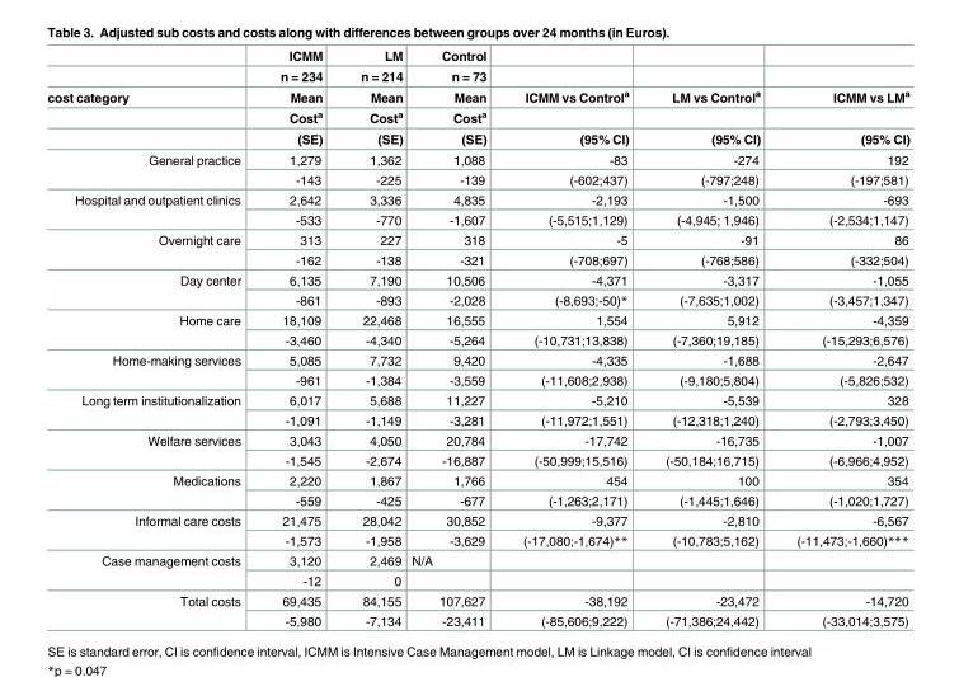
<table><thead><tr><td rowspan="5">cost category</td><td rowspan="5">ICMM n = 234 Mean Costa (SE)</td><td rowspan="5">LM n = 214 Mean Costa (SE)</td><td rowspan="5">Control n = 73 Mean Costa (SE)</td><td rowspan="5">ICMM vs Control<sup>a</sup> (95% CI)</td><td rowspan="5">LM vs Control<sup>a</sup> (95% CI)</td><td rowspan="5">ICMM vs LM<sup>a</sup> (95% CI)</td></tr><tr></tr><tr></tr><tr></tr><tr></tr></thead><tbody><tr><td rowspan="2">General practice</td><td>1,279</td><td>1,362</td><td>1,088</td><td>-83</td><td>-274</td><td>192</td></tr><tr><td>-143</td><td>-225</td><td>-139</td><td>(-602;437)</td><td>(-797;248)</td><td>(-197;581)</td></tr><tr><td rowspan="2">Hospital and outpatient clinics</td><td>2,642</td><td>3,336</td><td>4,835</td><td>-2,193</td><td>-1,500</td><td>-693</td></tr><tr><td>-533</td><td>-770</td><td>-1,607</td><td>(-5,515;1,129)</td><td>(-4,945; 1,946)</td><td>(-2,534;1,147)</td></tr><tr><td rowspan="2">Overnight care</td><td>313</td><td>227</td><td>318</td><td>-5</td><td>-91</td><td>86</td></tr><tr><td>-162</td><td>-138</td><td>-321</td><td>(-708;697)</td><td>(-768;586)</td><td>(-332;504)</td></tr><tr><td rowspan="2">Day center</td><td>6,135</td><td>7,190</td><td>10,506</td><td>-4,371</td><td>-3,317</td><td>-1,055</td></tr><tr><td>-861</td><td>-893</td><td>-2,028</td><td>(-8,693;-50)*</td><td>(-7,635;1,002)</td><td>(-3,457;1,347)</td></tr><tr><td rowspan="2">Home care</td><td>18,109</td><td>22,468</td><td>16,555</td><td>1,554</td><td>5,912</td><td>-4,359</td></tr><tr><td>-3,460</td><td>-4,340</td><td>-5,264</td><td>(-10,731;13,838)</td><td>(-7,360;19,185)</td><td>(-15,293;6,576)</td></tr><tr><td rowspan="2">Home-making services</td><td>5,085</td><td>7,732</td><td>9,420</td><td>-4,335</td><td>-1,688</td><td>-2,647</td></tr><tr><td>-961</td><td>-1,384</td><td>-3,559</td><td>(-11,608;2,938)</td><td>(-9,180;5,804)</td><td>(-5,826;532)</td></tr><tr><td rowspan="2">Long term institutionalization</td><td>6,017</td><td>5,688</td><td>11,227</td><td>-5,210</td><td>-5,539</td><td>328</td></tr><tr><td>-1,091</td><td>-1,149</td><td>-3,281</td><td>(-11,972;1,551)</td><td>(-12,318;1,240)</td><td>(-2,793;3,450)</td></tr><tr><td rowspan="2">Welfare services</td><td>3,043</td><td>4,050</td><td>20,784</td><td>-17,742</td><td>-16,735</td><td>-1,007</td></tr><tr><td>-1,545</td><td>-2,674</td><td>-16,887</td><td>(-50,999;15,516)</td><td>(-50,184;16,715)</td><td>(-6,966;4,952)</td></tr><tr><td rowspan="2">Medications</td><td>2,220</td><td>1,867</td><td>1,766</td><td>454</td><td>100</td><td>354</td></tr><tr><td>-559</td><td>-425</td><td>-677</td><td>(-1,263;2,171)</td><td>(-1,445;1,646)</td><td>(-1,020;1,727)</td></tr><tr><td rowspan="2">Informal care costs</td><td>21,475</td><td>28,042</td><td>30,852</td><td>-9,377</td><td>-2,810</td><td>-6,567</td></tr><tr><td>-1,573</td><td>-1,958</td><td>-3,629</td><td>(-17,080;-1,674)**</td><td>(-10,783;5,162)</td><td>(-11,473;-1,660)***</td></tr><tr><td rowspan="2">Case management costs</td><td>3,120</td><td>2,469</td><td>N/A</td><td></td><td></td><td></td></tr><tr><td>-12</td><td>0</td><td></td><td></td><td></td><td></td></tr><tr><td rowspan="2">Total costs</td><td>69,435</td><td>84,155</td><td>107,627</td><td>-38,192</td><td>-23,472</td><td>-14,720</td></tr><tr><td>-5,980</td><td>-7,134</td><td>-23,411</td><td>(-85,606;9,222)</td><td>(-71,386;24,442)</td><td>(-33,014;3,575)</td></tr></tbody></table>